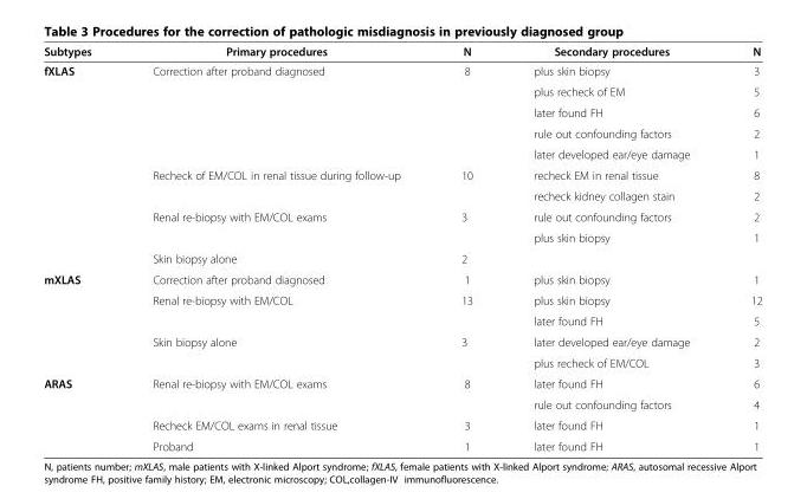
<table><thead><tr><td>Subtypes</td><td>Primary procedures</td><td>N</td><td>Secondary procedures</td><td>N</td></tr></thead><tbody><tr><td rowspan="10">fXLAS</td><td>Correction after proband diagnosed</td><td>8</td><td>plus skin biopsy</td><td>3</td></tr><tr><td></td><td></td><td>plus recheck of EM</td><td>5</td></tr><tr><td></td><td></td><td>later found FH</td><td>6</td></tr><tr><td></td><td></td><td>rule out confounding factors</td><td>2</td></tr><tr><td></td><td></td><td>later developed ear/eye damage</td><td>1</td></tr><tr><td>Recheck of EM/COL in renal tissue during follow-up</td><td>10</td><td>recheck EM in renal tissue</td><td>8</td></tr><tr><td></td><td></td><td>recheck kidney collagen stain</td><td>2</td></tr><tr><td>Renal re-biopsy with EM/COL exams</td><td>3</td><td>rule out confounding factors</td><td>2</td></tr><tr><td></td><td></td><td>plus skin biopsy</td><td>1</td></tr><tr><td>Skin biopsy alone</td><td>2</td><td></td><td></td></tr><tr><td rowspan="5">mXLAS</td><td>Correction after proband diagnosed</td><td>1</td><td>plus skin biopsy</td><td>1</td></tr><tr><td>Renal re-biopsy with EM/COL</td><td>13</td><td>plus skin biopsy</td><td>12</td></tr><tr><td></td><td></td><td>later found FH</td><td>5</td></tr><tr><td>Skin biopsy alone</td><td>3</td><td>later developed ear/eye damage</td><td>2</td></tr><tr><td></td><td></td><td>plus recheck of EM/COL</td><td>3</td></tr><tr><td rowspan="4">ARAS</td><td>Renal re-biopsy with EM/COL exams</td><td>8</td><td>later found FH</td><td>6</td></tr><tr><td></td><td></td><td>rule out confounding factors</td><td>4</td></tr><tr><td>Recheck EM/COL exams in renal tissue</td><td>3</td><td>later found FH</td><td>1</td></tr><tr><td>Proband</td><td>1</td><td>later found FH</td><td>1</td></tr></tbody></table>